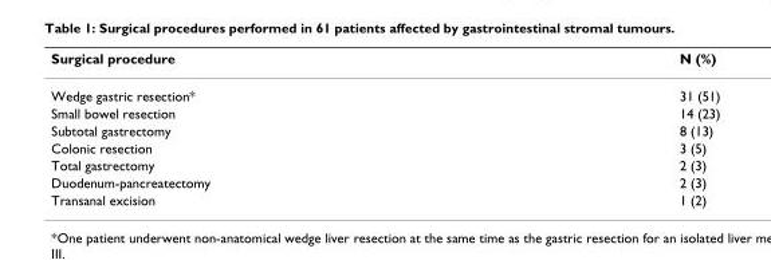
<table><thead><tr><td>Surgical procedure</td><td>N (%)</td></tr></thead><tbody><tr><td>Wedge gastric resection*</td><td>31 (51)</td></tr><tr><td>Small bowel resection</td><td>14 (23)</td></tr><tr><td>Subtotal gastrectomy</td><td>8 (13)</td></tr><tr><td>Colonic resection</td><td>3 (5)</td></tr><tr><td>Total gastrectomy</td><td>2 (3)</td></tr><tr><td>Duodenum-pancreatectomy</td><td>2 (3)</td></tr><tr><td>Transanal excision</td><td>1 (2)</td></tr></tbody></table>